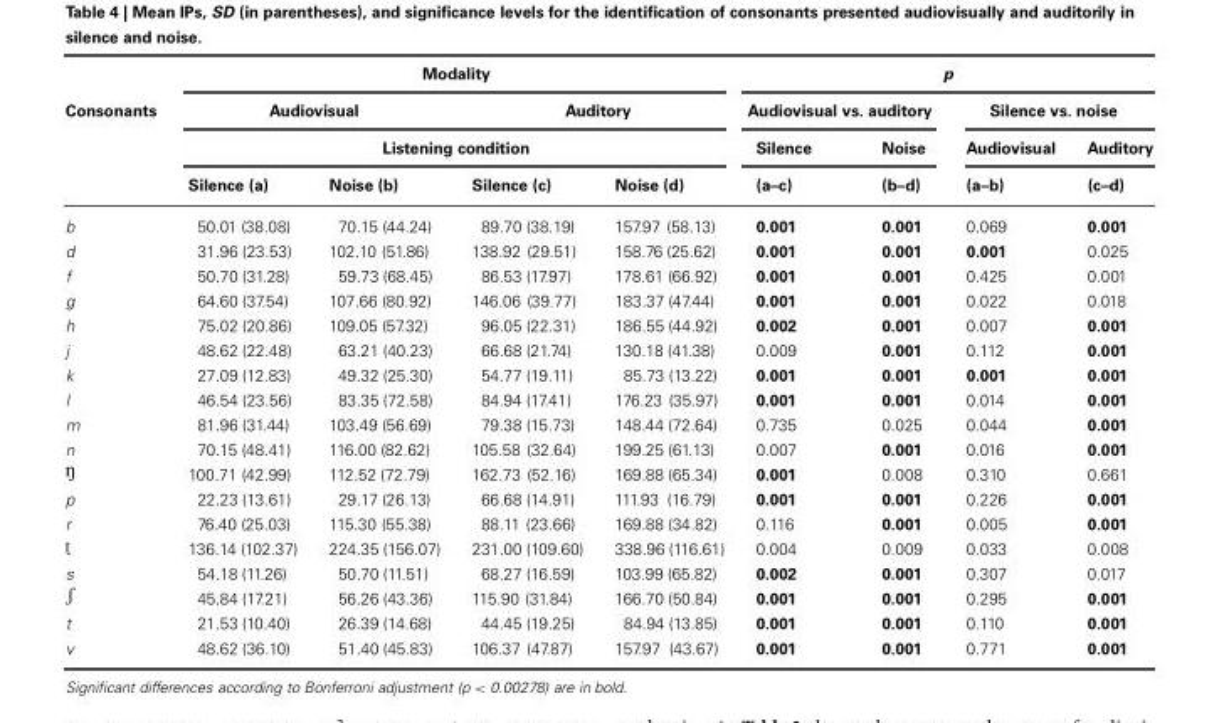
<table><thead><tr><td rowspan="4">Consonants</td><td colspan="4">Modality</td><td colspan="4">p</td></tr><tr><td colspan="2">Audiovisual</td><td colspan="2">Auditory</td><td colspan="2">Audiovisual vs. auditory</td><td colspan="2">Silence vs. noise</td></tr><tr><td colspan="4">Listening condition</td><td rowspan="2">Silence (a–c)</td><td rowspan="2">Noise (b–d)</td><td rowspan="2">Audiovisual (a–b)</td><td rowspan="2">Auditory (c–d)</td></tr><tr><td>Silence (a)</td><td>Noise (b)</td><td>Silence (c)</td><td>Noise (d)</td></tr></thead><tbody><tr><td>b</td><td>50.01 (38.08)</td><td>70.15 (44.24)</td><td>89.70 (38.19)</td><td>157.97 (58.13)</td><td>0.001</td><td>0.001</td><td>0.069</td><td>0.001</td></tr><tr><td>d</td><td>31.96 (23.53)</td><td>102.10 (51.86)</td><td>138.92 (29.51)</td><td>158.76 (25.62)</td><td>0.001</td><td>0.001</td><td>0.001</td><td>0.025</td></tr><tr><td>f</td><td>50.70 (31.28)</td><td>59.73 (68.45)</td><td>86.53 (17.97)</td><td>178.61 (66.92)</td><td>0.001</td><td>0.001</td><td>0.425</td><td>0.001</td></tr><tr><td>g</td><td>64.60 (37.54)</td><td>107.66 (80.92)</td><td>146.06 (39.77)</td><td>183.37 (47.44)</td><td>0.001</td><td>0.001</td><td>0.022</td><td>0.018</td></tr><tr><td>h</td><td>75.02 (20.86)</td><td>109.05 (57.32)</td><td>96.05 (22.31)</td><td>186.55 (44.92)</td><td>0.002</td><td>0.001</td><td>0.007</td><td>0.001</td></tr><tr><td>j</td><td>48.62 (22.48)</td><td>63.21 (40.23)</td><td>66.68 (21.74)</td><td>130.18 (41.38)</td><td>0.009</td><td>0.001</td><td>0.112</td><td>0.001</td></tr><tr><td>k</td><td>27.09 (12.83)</td><td>49.32 (25.30)</td><td>54.77 (19.11)</td><td>85.73 (13.22)</td><td>0.001</td><td>0.001</td><td>0.001</td><td>0.001</td></tr><tr><td>l</td><td>46.54 (23.56)</td><td>83.35 (72.58)</td><td>84.94 (17.41)</td><td>176.23 (35.97)</td><td>0.001</td><td>0.001</td><td>0.014</td><td>0.001</td></tr><tr><td>m</td><td>81.96 (31.44)</td><td>103.49 (56.69)</td><td>79.38 (15.73)</td><td>148.44 (72.64)</td><td>0.735</td><td>0.025</td><td>0.044</td><td>0.001</td></tr><tr><td>n</td><td>70.15 (48.41)</td><td>116.00 (82.62)</td><td>105.58 (32.64)</td><td>199.25 (61.13)</td><td>0.007</td><td>0.001</td><td>0.016</td><td>0.001</td></tr><tr><td></td><td>100.71 (42.99)</td><td>112.52 (72.79)</td><td>162.73 (52.16)</td><td>169.88 (65.34)</td><td>0.001</td><td>0.008</td><td>0.310</td><td>0.661</td></tr><tr><td>p</td><td>22.23 (13.61)</td><td>29.17 (26.13)</td><td>66.68 (14.91)</td><td>111.93 (16.79)</td><td>0.001</td><td>0.001</td><td>0.226</td><td>0.001</td></tr><tr><td>r</td><td>76.40 (25.03)</td><td>115.30 (55.38)</td><td>88.11 (23.66)</td><td>169.88 (34.82)</td><td>0.116</td><td>0.001</td><td>0.005</td><td>0.001</td></tr><tr><td></td><td>136.14 (102.37)</td><td>224.35 (156.07)</td><td>231.00 (109.60)</td><td>338.96 (116.61)</td><td>0.004</td><td>0.009</td><td>0.033</td><td>0.008</td></tr><tr><td>s</td><td>54.18 (11.26)</td><td>50.70 (11.51)</td><td>68.27 (16.59)</td><td>103.99 (65.82)</td><td>0.002</td><td>0.001</td><td>0.307</td><td>0.017</td></tr><tr><td></td><td>45.84 (17.21)</td><td>56.26 (43.36)</td><td>115.90 (31.84)</td><td>166.70 (50.84)</td><td>0.001</td><td>0.001</td><td>0.295</td><td>0.001</td></tr><tr><td>t</td><td>21.53 (10.40)</td><td>26.39 (14.68)</td><td>44.45 (19.25)</td><td>84.94 (13.85)</td><td>0.001</td><td>0.001</td><td>0.110</td><td>0.001</td></tr><tr><td>v</td><td>48.62 (36.10)</td><td>51.40 (45.83)</td><td>106.37 (47.87)</td><td>157.97 (43.67)</td><td>0.001</td><td>0.001</td><td>0.771</td><td>0.001</td></tr></tbody></table>